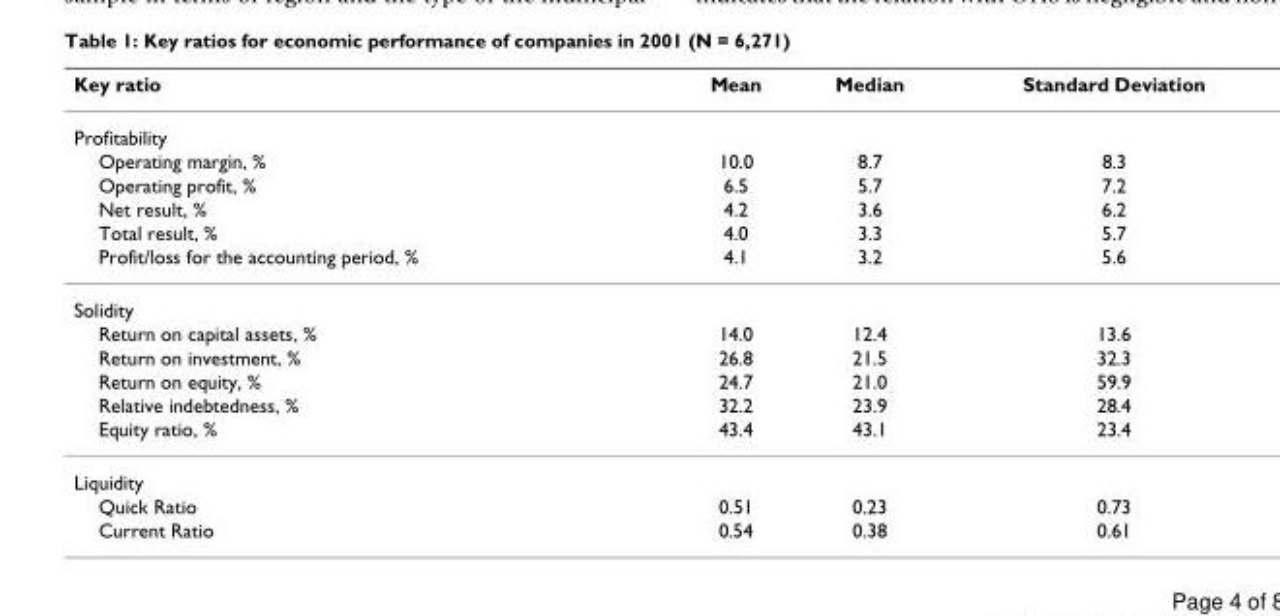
<table><thead><tr><td>Key ratio</td><td>Mean</td><td>Median</td><td>Standard Deviation</td></tr></thead><tbody><tr><td colspan="4">Profitability</td></tr><tr><td>Operating margin, %</td><td>10.0</td><td>8.7</td><td>8.3</td></tr><tr><td>Operating profit, %</td><td>6.5</td><td>5.7</td><td>7.2</td></tr><tr><td>Net result, %</td><td>4.2</td><td>3.6</td><td>6.2</td></tr><tr><td>Total result, %</td><td>4.0</td><td>3.3</td><td>5.7</td></tr><tr><td>Profit/loss for the accounting period, %</td><td>4.1</td><td>3.2</td><td>5.6</td></tr><tr><td colspan="4">Solidity</td></tr><tr><td>Return on capital assets, %</td><td>14.0</td><td>12.4</td><td>13.6</td></tr><tr><td>Return on investment, %</td><td>26.8</td><td>21.5</td><td>32.3</td></tr><tr><td>Return on equity, %</td><td>24.7</td><td>21.0</td><td>59.9</td></tr><tr><td>Relative indebtedness, %</td><td>32.2</td><td>23.9</td><td>28.4</td></tr><tr><td>Equity ratio, %</td><td>43.4</td><td>43.1</td><td>23.4</td></tr><tr><td colspan="4">Liquidity</td></tr><tr><td>Quick Ratio</td><td>0.51</td><td>0.23</td><td>0.73</td></tr><tr><td>Current Ratio</td><td>0.54</td><td>0.38</td><td>0.61</td></tr></tbody></table>